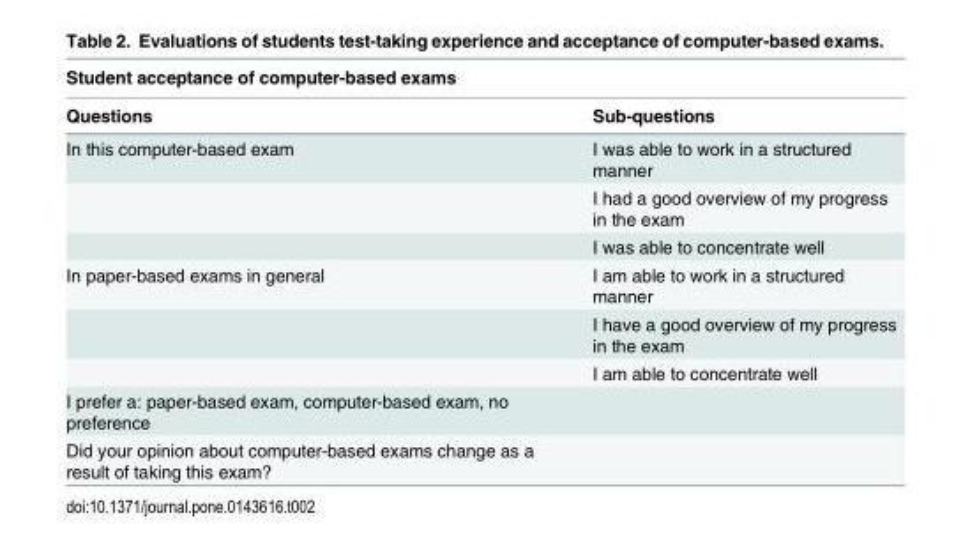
<table><thead><tr><td colspan="2">Student acceptance of computer-based exams</td></tr><tr><td>Questions</td><td>Sub-questions</td></tr></thead><tbody><tr><td rowspan="3">In this computer-based exam</td><td>I was able to work in a structured manner</td></tr><tr><td>I had a good overview of my progress in the exam</td></tr><tr><td>I was able to concentrate well</td></tr><tr><td rowspan="3">In paper-based exams in general</td><td>I am able to work in a structured manner</td></tr><tr><td>I have a good overview of my progress in the exam</td></tr><tr><td>I am able to concentrate well</td></tr><tr><td colspan="2">I prefer a: paper-based exam, computer-based exam, no preference</td></tr><tr><td>Did your opinion about computer-based exams change as a result of taking this exam?</td><td></td></tr></tbody></table>